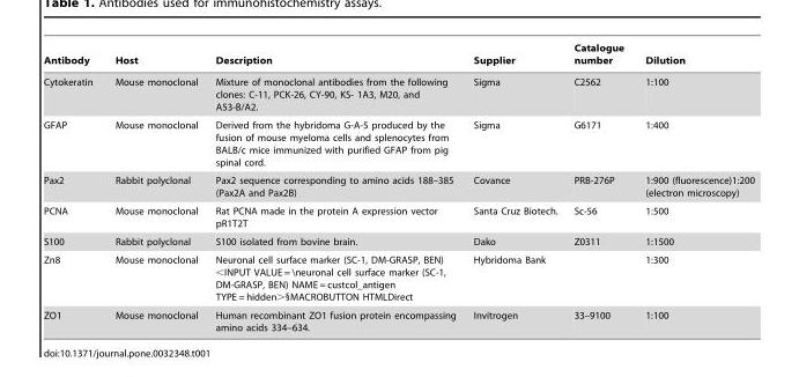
<table><thead><tr><td>Antibody</td><td>Host</td><td>Description</td><td>Supplier</td><td>Catalogue number</td><td>Dilution</td></tr></thead><tbody><tr><td>Cytokeratin</td><td>Mouse monoclonal</td><td>Mixture of monoclonal antibodies from the following clones: C-11, PCK-26, CY-90, KS- 1A3, M20, and A53-B/A2.</td><td>Sigma</td><td>C2562</td><td>1:100</td></tr><tr><td>GFAP</td><td>Mouse monoclonal</td><td>Derived from the hybridoma G-A-5 produced by the fusion of mouse myeloma cells and splenocytes from BALB/c mice immunized with purified GFAP from pig spinal cord.</td><td>Sigma</td><td>G6171</td><td>1:400</td></tr><tr><td>Pax2</td><td>Rabbit polyclonal</td><td>Pax2 sequence corresponding to amino acids 188–385 (Pax2A and Pax2B)</td><td>Covance</td><td>PRB-276P</td><td>1:900 (fluorescence)1:200 (electron microscopy)</td></tr><tr><td>PCNA</td><td>Mouse monoclonal</td><td>Rat PCNA made in the protein A expression vector pR1T2T</td><td>Santa Cruz Biotech.</td><td>Sc-56</td><td>1:500</td></tr><tr><td>S100</td><td>Rabbit polyclonal</td><td>S100 isolated from bovine brain.</td><td>Dako</td><td>Z0311</td><td>1:1500</td></tr><tr><td>Zn8</td><td>Mouse monoclonal</td><td>Neuronal cell surface marker (SC-1, DM-GRASP, BEN) &lt;INPUT VALUE = \neuronal cell surface marker (SC-1, DM-GRASP, BEN) NAME = custcol_antigen TYPE = hidden&gt;§MACROBUTTON HTMLDirect</td><td>Hybridoma Bank</td><td></td><td>1:300</td></tr><tr><td>ZO1</td><td>Mouse monoclonal</td><td>Human recombinant ZO1 fusion protein encompassing amino acids 334–634.</td><td>Invitrogen</td><td>33–9100</td><td>1:100</td></tr></tbody></table>